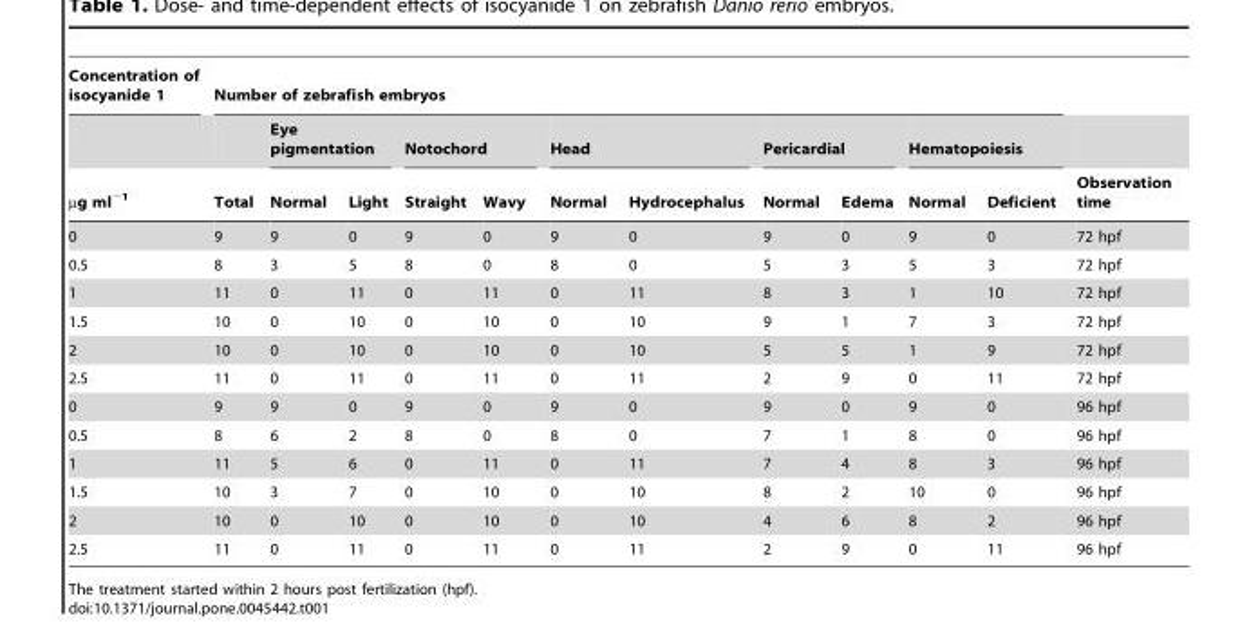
<table><thead><tr><td rowspan="3">Concentration of isocyanide 1 µg ml<sup>−1</sup></td><td colspan="11">Number of zebrafish embryos</td><td rowspan="3">Observation time</td></tr><tr><td rowspan="2">Total</td><td colspan="2">Eye pigmentation</td><td colspan="2">Notochord</td><td colspan="2">Head</td><td colspan="2">Pericardial</td><td colspan="2">Hematopoiesis</td></tr><tr><td>Normal</td><td>Light</td><td>Straight</td><td>Wavy</td><td>Normal</td><td>Hydrocephalus</td><td>Normal</td><td>Edema</td><td>Normal</td><td>Deficient</td></tr></thead><tbody><tr><td>0</td><td>9</td><td>9</td><td>0</td><td>9</td><td>0</td><td>9</td><td>0</td><td>9</td><td>0</td><td>9</td><td>0</td><td>72 hpf</td></tr><tr><td>0.5</td><td>8</td><td>3</td><td>5</td><td>8</td><td>0</td><td>8</td><td>0</td><td>5</td><td>3</td><td>5</td><td>3</td><td>72 hpf</td></tr><tr><td>1</td><td>11</td><td>0</td><td>11</td><td>0</td><td>11</td><td>0</td><td>11</td><td>8</td><td>3</td><td>1</td><td>10</td><td>72 hpf</td></tr><tr><td>1.5</td><td>10</td><td>0</td><td>10</td><td>0</td><td>10</td><td>0</td><td>10</td><td>9</td><td>1</td><td>7</td><td>3</td><td>72 hpf</td></tr><tr><td>2</td><td>10</td><td>0</td><td>10</td><td>0</td><td>10</td><td>0</td><td>10</td><td>5</td><td>5</td><td>1</td><td>9</td><td>72 hpf</td></tr><tr><td>2.5</td><td>11</td><td>0</td><td>11</td><td>0</td><td>11</td><td>0</td><td>11</td><td>2</td><td>9</td><td>0</td><td>11</td><td>72 hpf</td></tr><tr><td>0</td><td>9</td><td>9</td><td>0</td><td>9</td><td>0</td><td>9</td><td>0</td><td>9</td><td>0</td><td>9</td><td>0</td><td>96 hpf</td></tr><tr><td>0.5</td><td>8</td><td>6</td><td>2</td><td>8</td><td>0</td><td>8</td><td>0</td><td>7</td><td>1</td><td>8</td><td>0</td><td>96 hpf</td></tr><tr><td>1</td><td>11</td><td>5</td><td>6</td><td>0</td><td>11</td><td>0</td><td>11</td><td>7</td><td>4</td><td>8</td><td>3</td><td>96 hpf</td></tr><tr><td>1.5</td><td>10</td><td>3</td><td>7</td><td>0</td><td>10</td><td>0</td><td>10</td><td>8</td><td>2</td><td>10</td><td>0</td><td>96 hpf</td></tr><tr><td>2</td><td>10</td><td>0</td><td>10</td><td>0</td><td>10</td><td>0</td><td>10</td><td>4</td><td>6</td><td>8</td><td>2</td><td>96 hpf</td></tr><tr><td>2.5</td><td>11</td><td>0</td><td>11</td><td>0</td><td>11</td><td>0</td><td>11</td><td>2</td><td>9</td><td>0</td><td>11</td><td>96 hpf</td></tr></tbody></table>